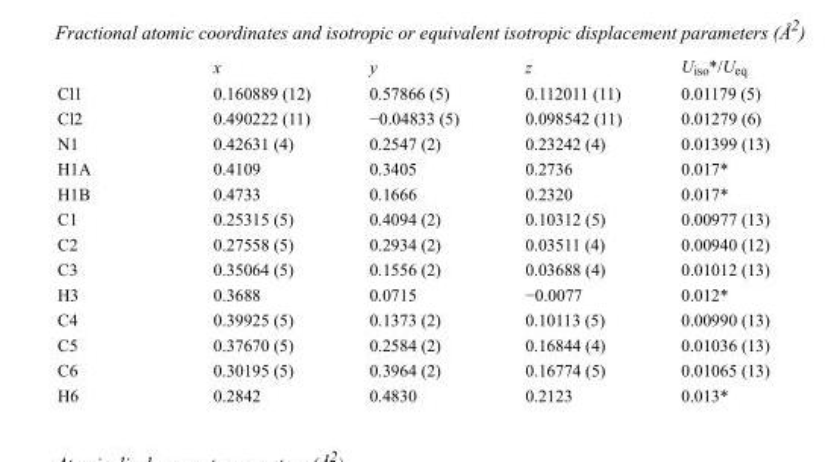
<table><thead><tr><td></td><td>x</td><td>y</td><td>z</td><td>U<sub>iso</sub>*/U<sub>eq</sub></td></tr></thead><tbody><tr><td>Cl1</td><td>0.160889 (12)</td><td>0.57866 (5)</td><td>0.112011 (11)</td><td>0.01179 (5)</td></tr><tr><td>Cl2</td><td>0.490222 (11)</td><td>−0.04833 (5)</td><td>0.098542 (11)</td><td>0.01279 (6)</td></tr><tr><td>N1</td><td>0.42631 (4)</td><td>0.2547 (2)</td><td>0.23242 (4)</td><td>0.01399 (13)</td></tr><tr><td>H1A</td><td>0.4109</td><td>0.3405</td><td>0.2736</td><td>0.017*</td></tr><tr><td>H1B</td><td>0.4733</td><td>0.1666</td><td>0.2320</td><td>0.017*</td></tr><tr><td>C1</td><td>0.25315 (5)</td><td>0.4094 (2)</td><td>0.10312 (5)</td><td>0.00977 (13)</td></tr><tr><td>C2</td><td>0.27558 (5)</td><td>0.2934 (2)</td><td>0.03511 (4)</td><td>0.00940 (12)</td></tr><tr><td>C3</td><td>0.35064 (5)</td><td>0.1556 (2)</td><td>0.03688 (4)</td><td>0.01012 (13)</td></tr><tr><td>H3</td><td>0.3688</td><td>0.0715</td><td>−0.0077</td><td>0.012*</td></tr><tr><td>C4</td><td>0.39925 (5)</td><td>0.1373 (2)</td><td>0.10113 (5)</td><td>0.00990 (13)</td></tr><tr><td>C5</td><td>0.37670 (5)</td><td>0.2584 (2)</td><td>0.16844 (4)</td><td>0.01036 (13)</td></tr><tr><td>C6</td><td>0.30195 (5)</td><td>0.3964 (2)</td><td>0.16774 (5)</td><td>0.01065 (13)</td></tr><tr><td>H6</td><td>0.2842</td><td>0.4830</td><td>0.2123</td><td>0.013*</td></tr></tbody></table>